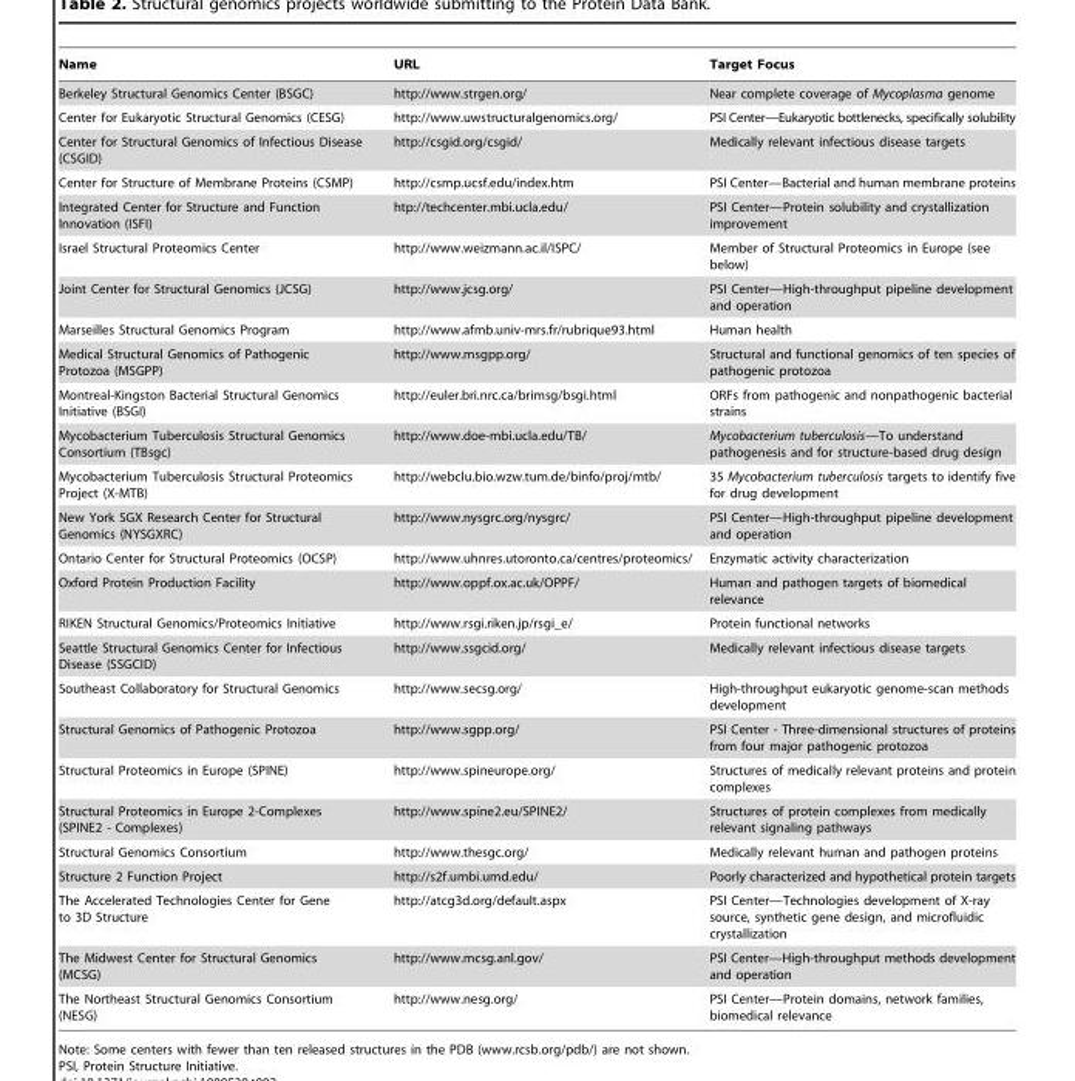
<table><thead><tr><td>Name</td><td>URL</td><td>Target Focus</td></tr></thead><tbody><tr><td>Berkeley Structural Genomics Center (BSGC)</td><td>http://www.strgen.org/</td><td>Near complete coverage of Mycoplasma genome</td></tr><tr><td>Center for Eukaryotic Structural Genomics (CESG)</td><td>http://www.uwstructuralgenomics.org/</td><td>PSI Center—Eukaryotic bottlenecks, specifically solubility</td></tr><tr><td>Center for Structural Genomics of Infectious Disease (CSGID)</td><td>http://csgid.org/csgid/</td><td>Medically relevant infectious disease targets</td></tr><tr><td>Center for Structure of Membrane Proteins (CSMP)</td><td>http://csmp.ucsf.edu/index.htm</td><td>PSI Center—Bacterial and human membrane proteins</td></tr><tr><td>Integrated Center for Structure and Function Innovation (ISFI)</td><td>htp://techcenter.mbi.ucla.edu/</td><td>PSI Center—Protein solubility and crystallization improvement</td></tr><tr><td>Israel Structural Proteomics Center</td><td>http://www.weizmann.ac.il/ISPC/</td><td>Member of Structural Proteomics in Europe (see below)</td></tr><tr><td>Joint Center for Structural Genomics (JCSG)</td><td>http://www.jcsg.org/</td><td>PSI Center—High-throughput pipeline development and operation</td></tr><tr><td>Marseilles Structural Genomics Program</td><td>http://www.afmb.univ-mrs.fr/rubrique93.html</td><td>Human health</td></tr><tr><td>Medical Structural Genomics of Pathogenic Protozoa (MSGPP)</td><td>http://www.msgpp.org/</td><td>Structural and functional genomics of ten species of pathogenic protozoa</td></tr><tr><td>Montreal-Kingston Bacterial Structural Genomics Initiative (BSGI)</td><td>http://euler.bri.nrc.ca/brimsg/bsgi.html</td><td>ORFs from pathogenic and nonpathogenic bacterial strains</td></tr><tr><td>Mycobacterium Tuberculosis Structural Genomics Consortium (TBsgc)</td><td>http://www.doe-mbi.ucla.edu/TB/</td><td>Mycobacterium tuberculosis—To understand pathogenesis and for structure-based drug design</td></tr><tr><td>Mycobacterium Tuberculosis Structural Proteomics Project (X-MTB)</td><td>http://webclu.bio.wzw.tum.de/binfo/proj/mtb/</td><td>35 Mycobacterium tuberculosis targets to identify five for drug development</td></tr><tr><td>New York SGX Research Center for Structural Genomics (NYSGXRC)</td><td>http://www.nysgrc.org/nysgrc/</td><td>PSI Center—High-throughput pipeline development and operation</td></tr><tr><td>Ontario Center for Structural Proteomics (OCSP)</td><td>http://www.uhnres.utoronto.ca/centres/proteomics/</td><td>Enzymatic activity characterization</td></tr><tr><td>Oxford Protein Production Facility</td><td>http://www.oppf.ox.ac.uk/OPPF/</td><td>Human and pathogen targets of biomedical relevance</td></tr><tr><td>RIKEN Structural Genomics/Proteomics Initiative</td><td>http://www.rsgi.riken.jp/rsgi_e/</td><td>Protein functional networks</td></tr><tr><td>Seattle Structural Genomics Center for Infectious Disease (SSGCID)</td><td>http://www.ssgcid.org/</td><td>Medically relevant infectious disease targets</td></tr><tr><td>Southeast Collaboratory for Structural Genomics</td><td>http://www.secsg.org/</td><td>High-throughput eukaryotic genome-scan methods development</td></tr><tr><td>Structural Genomics of Pathogenic Protozoa</td><td>http://www.sgpp.org/</td><td>PSI Center - Three-dimensional structures of proteins from four major pathogenic protozoa</td></tr><tr><td>Structural Proteomics in Europe (SPINE)</td><td>http://www.spineurope.org/</td><td>Structures of medically relevant proteins and protein complexes</td></tr><tr><td>Structural Proteomics in Europe 2-Complexes (SPINE2 - Complexes)</td><td>http://www.spine2.eu/SPINE2/</td><td>Structures of protein complexes from medically relevant signaling pathways</td></tr><tr><td>Structural Genomics Consortium</td><td>http://www.thesgc.org/</td><td>Medically relevant human and pathogen proteins</td></tr><tr><td>Structure 2 Function Project</td><td>http://s2f.umbi.umd.edu/</td><td>Poorly characterized and hypothetical protein targets</td></tr><tr><td>The Accelerated Technologies Center for Gene to 3D Structure</td><td>http://atcg3d.org/default.aspx</td><td>PSI Center—Technologies development of X-ray source, synthetic gene design, and microfluidic crystallization</td></tr><tr><td>The Midwest Center for Structural Genomics (MCSG)</td><td>http://www.mcsg.anl.gov/</td><td>PSI Center—High-throughput methods development and operation</td></tr><tr><td>The Northeast Structural Genomics Consortium (NESG)</td><td>http://www.nesg.org/</td><td>PSI Center—Protein domains, network families, biomedical relevance</td></tr></tbody></table>